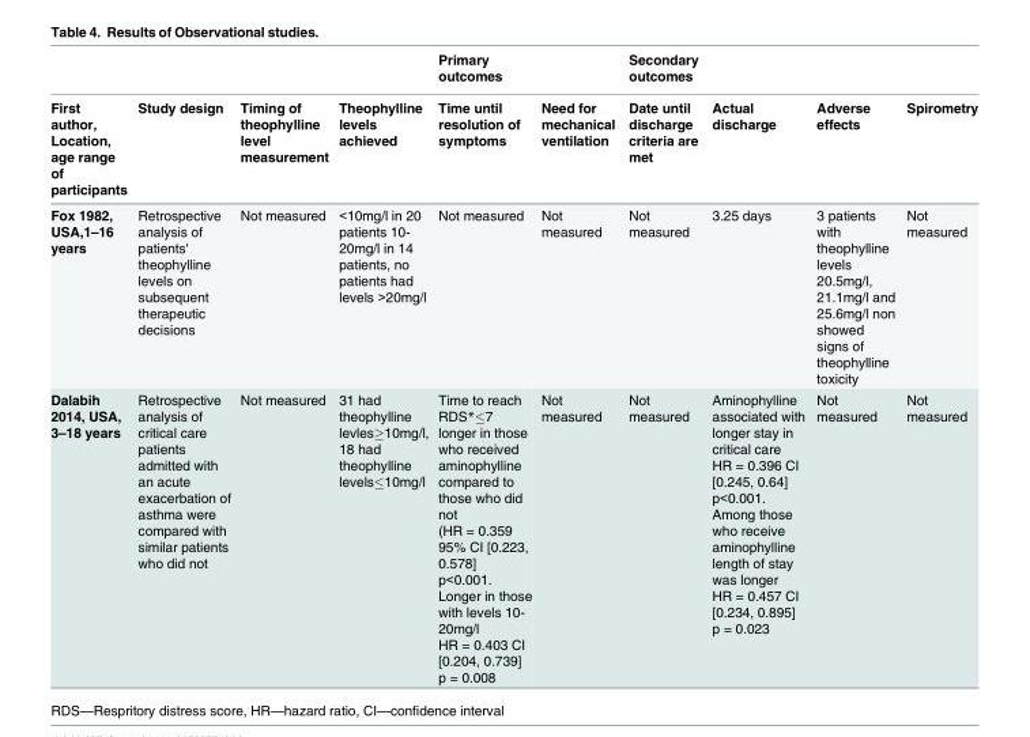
<table><thead><tr><td rowspan="2">First author, Location, age range of participants</td><td rowspan="2">Study design</td><td rowspan="2">Timing of theophylline level measurement</td><td rowspan="2">Theophylline levels achieved</td><td rowspan="2">Primary outcomes Time until resolution of symptoms</td><td rowspan="2">Need for mechanical ventilation</td><td rowspan="2">Secondary outcomes Date until discharge criteria are met</td><td rowspan="2">Actual discharge</td><td rowspan="2">Adverse effects</td><td rowspan="2">Spirometry</td></tr><tr></tr></thead><tbody><tr><td>Fox 1982, USA,1–16 years</td><td>Retrospective analysis of patients&#x27; theophylline levels on subsequent therapeutic decisions</td><td>Not measured</td><td>&lt;10mg/l in 20 patients 10- 20mg/l in 14 patients, no patients had levels &gt;20mg/l</td><td>Not measured</td><td>Not measured</td><td>Not measured</td><td>3.25 days</td><td>3 patients with theophylline levels 20.5mg/l, 21.1mg/l and 25.6mg/l non showed signs of theophylline toxicity</td><td>Not measured</td></tr><tr><td>Dalabih 2014, USA, 3–18 years</td><td>Retrospective analysis of critical care patients admitted with an acute exacerbation of asthma were compared with similar patients who did not</td><td>Not measured</td><td>31 had theophylline levles≥10mg/l, 18 had theophylline levels≤10mg/l</td><td>Time to reach RDS*≤7 longer in those who received aminophylline compared to those who did not (HR = 0.359 95% CI [0.223, 0.578] p&lt;0.001. Longer in those with levels 10- 20mg/l HR = 0.403 CI [0.204, 0.739] p = 0.008</td><td>Not measured</td><td>Not measured</td><td>Aminophylline associated with longer stay in critical care HR = 0.396 CI [0.245, 0.64] p&lt;0.001. Among those who receive aminophylline length of stay was longer HR = 0.457 CI [0.234, 0.895] p = 0.023</td><td>Not measured</td><td>Not measured</td></tr></tbody></table>